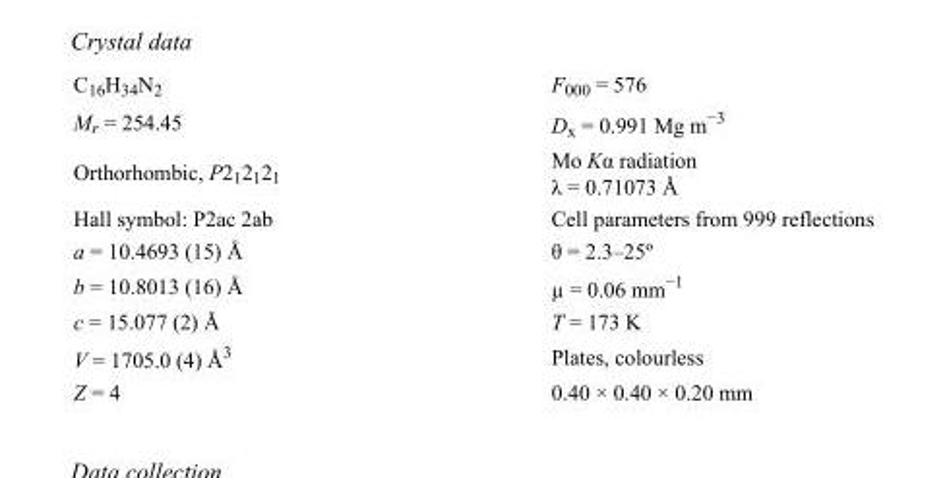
<table><tbody><tr><td>C<sub>16</sub>H<sub>34</sub>N<sub>2</sub></td><td>F000 = 576</td></tr><tr><td>M<sub>r</sub> = 254.45</td><td>D<sub>x</sub> = 0.991 Mg m<sup>−3</sup></td></tr><tr><td>Orthorhombic, P2<sub>1</sub>2<sub>1</sub>2<sub>1</sub></td><td>Mo Kα radiation λ = 0.71073 Å</td></tr><tr><td>Hall symbol: P2ac 2ab</td><td>Cell parameters from 999 reflections</td></tr><tr><td>a = 10.4693 (15) Å</td><td>θ = 2.3–25º</td></tr><tr><td>b = 10.8013 (16) Å</td><td>µ = 0.06 mm<sup>−1</sup></td></tr><tr><td>c = 15.077 (2) Å</td><td>T = 173 K</td></tr><tr><td>V = 1705.0 (4) Å<sup>3</sup></td><td>Plates, colourless</td></tr><tr><td>Z = 4</td><td>0.40 × 0.40 × 0.20 mm</td></tr></tbody></table>